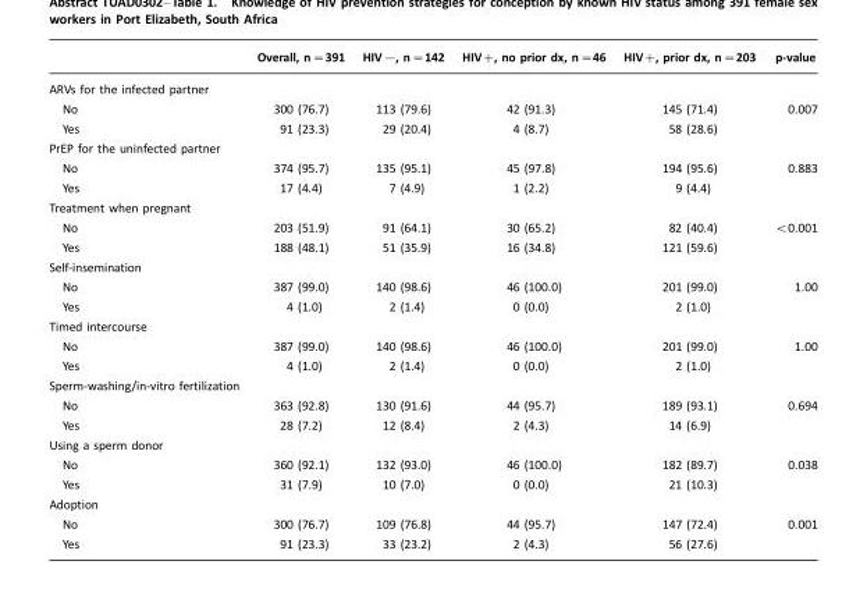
<table><thead><tr><td></td><td>Overall, n=391</td><td>HIV−, n=142</td><td>HIV+, no prior dx, n=46</td><td>HIV+, prior dx, n=203</td><td>p-value</td></tr></thead><tbody><tr><td colspan="6">ARVs for the infected partner</td></tr><tr><td>No</td><td>300 (76.7)</td><td>113 (79.6)</td><td>42 (91.3)</td><td>145 (71.4)</td><td>0.007</td></tr><tr><td>Yes</td><td>91 (23.3)</td><td>29 (20.4)</td><td>4 (8.7)</td><td>58 (28.6)</td><td></td></tr><tr><td colspan="6">PrEP for the uninfected partner</td></tr><tr><td>No</td><td>374 (95.7)</td><td>135 (95.1)</td><td>45 (97.8)</td><td>194 (95.6)</td><td>0.883</td></tr><tr><td>Yes</td><td>17 (4.4)</td><td>7 (4.9)</td><td>1 (2.2)</td><td>9 (4.4)</td><td></td></tr><tr><td colspan="6">Treatment when pregnant</td></tr><tr><td>No</td><td>203 (51.9)</td><td>91 (64.1)</td><td>30 (65.2)</td><td>82 (40.4)</td><td>&lt;0.001</td></tr><tr><td>Yes</td><td>188 (48.1)</td><td>51 (35.9)</td><td>16 (34.8)</td><td>121 (59.6)</td><td></td></tr><tr><td colspan="6">Self-insemination</td></tr><tr><td>No</td><td>387 (99.0)</td><td>140 (98.6)</td><td>46 (100.0)</td><td>201 (99.0)</td><td>1.00</td></tr><tr><td>Yes</td><td>4 (1.0)</td><td>2 (1.4)</td><td>0 (0.0)</td><td>2 (1.0)</td><td></td></tr><tr><td colspan="6">Timed intercourse</td></tr><tr><td>No</td><td>387 (99.0)</td><td>140 (98.6)</td><td>46 (100.0)</td><td>201 (99.0)</td><td>1.00</td></tr><tr><td>Yes</td><td>4 (1.0)</td><td>2 (1.4)</td><td>0 (0.0)</td><td>2 (1.0)</td><td></td></tr><tr><td colspan="6">Sperm-washing/in-vitro fertilization</td></tr><tr><td>No</td><td>363 (92.8)</td><td>130 (91.6)</td><td>44 (95.7)</td><td>189 (93.1)</td><td>0.694</td></tr><tr><td>Yes</td><td>28 (7.2)</td><td>12 (8.4)</td><td>2 (4.3)</td><td>14 (6.9)</td><td></td></tr><tr><td colspan="6">Using a sperm donor</td></tr><tr><td>No</td><td>360 (92.1)</td><td>132 (93.0)</td><td>46 (100.0)</td><td>182 (89.7)</td><td>0.038</td></tr><tr><td>Yes</td><td>31 (7.9)</td><td>10 (7.0)</td><td>0 (0.0)</td><td>21 (10.3)</td><td></td></tr><tr><td colspan="6">Adoption</td></tr><tr><td>No</td><td>300 (76.7)</td><td>109 (76.8)</td><td>44 (95.7)</td><td>147 (72.4)</td><td>0.001</td></tr><tr><td>Yes</td><td>91 (23.3)</td><td>33 (23.2)</td><td>2 (4.3)</td><td>56 (27.6)</td><td></td></tr></tbody></table>